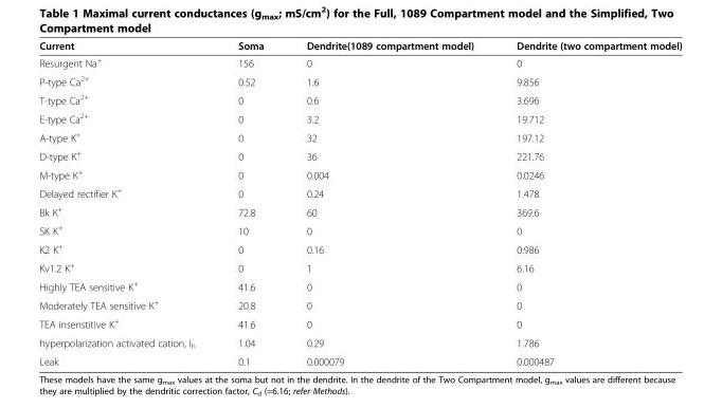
<table><thead><tr><td>Current</td><td>Soma</td><td>Dendrite(1089 compartment model)</td><td>Dendrite (two compartment model)</td></tr></thead><tbody><tr><td>Resurgent Na<sup>+</sup></td><td>156</td><td>0</td><td>0</td></tr><tr><td>P-type Ca<sup>2+</sup></td><td>0.52</td><td>1.6</td><td>9.856</td></tr><tr><td>T-type Ca<sup>2+</sup></td><td>0</td><td>0.6</td><td>3.696</td></tr><tr><td>E-type Ca<sup>2+</sup></td><td>0</td><td>3.2</td><td>19.712</td></tr><tr><td>A-type K<sup>+</sup></td><td>0</td><td>32</td><td>197.12</td></tr><tr><td>D-type K<sup>+</sup></td><td>0</td><td>36</td><td>221.76</td></tr><tr><td>M-type K<sup>+</sup></td><td>0</td><td>0.004</td><td>0.0246</td></tr><tr><td>Delayed rectifier K<sup>+</sup></td><td>0</td><td>0.24</td><td>1.478</td></tr><tr><td>Bk K<sup>+</sup></td><td>72.8</td><td>60</td><td>369.6</td></tr><tr><td>SK K<sup>+</sup></td><td>10</td><td>0</td><td>0</td></tr><tr><td>K2 K<sup>+</sup></td><td>0</td><td>0.16</td><td>0.986</td></tr><tr><td>Kv1.2 K<sup>+</sup></td><td>0</td><td>1</td><td>6.16</td></tr><tr><td>Highly TEA sensitive K<sup>+</sup></td><td>41.6</td><td>0</td><td>0</td></tr><tr><td>Moderately TEA sensitive K<sup>+</sup></td><td>20.8</td><td>0</td><td>0</td></tr><tr><td>TEA insenstitive K<sup>+</sup></td><td>41.6</td><td>0</td><td>0</td></tr><tr><td>hyperpolarization activated cation, I<sub>h</sub></td><td>1.04</td><td>0.29</td><td>1.786</td></tr><tr><td>Leak</td><td>0.1</td><td>0.000079</td><td>0.000487</td></tr></tbody></table>